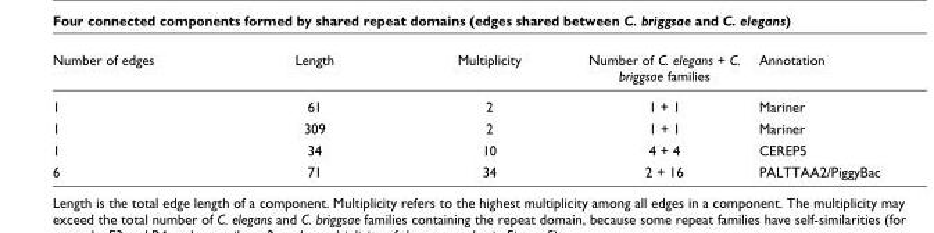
<table><thead><tr><td>Number of edges</td><td>Length</td><td>Multiplicity</td><td>Number of C. elegans + C. briggsae families</td><td>Annotation</td></tr></thead><tbody><tr><td>1</td><td>61</td><td>2</td><td>1 + 1</td><td>Mariner</td></tr><tr><td>1</td><td>309</td><td>2</td><td>1 + 1</td><td>Mariner</td></tr><tr><td>1</td><td>34</td><td>10</td><td>4 + 4</td><td>CEREP5</td></tr><tr><td>6</td><td>71</td><td>34</td><td>2 + 16</td><td>PALTTAA2/PiggyBac</td></tr></tbody></table>